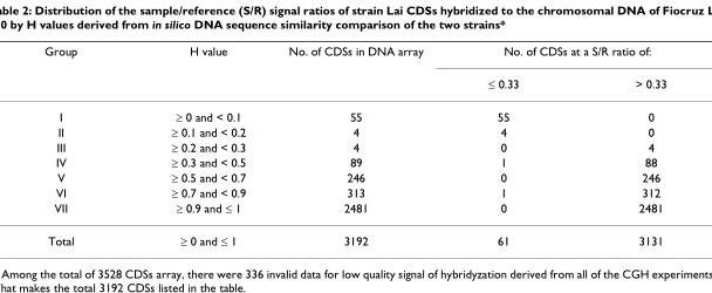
<table><thead><tr><td rowspan="2">Group</td><td rowspan="2">H value</td><td rowspan="2">No. of CDSs in DNA array</td><td colspan="2">No. of CDSs at a S/R ratio of:</td></tr><tr><td>≤ 0.33</td><td>&gt; 0.33</td></tr></thead><tbody><tr><td>I</td><td>≥ 0 and &lt; 0.1</td><td>55</td><td>55</td><td>0</td></tr><tr><td>II</td><td>≥ 0.1 and &lt; 0.2</td><td>4</td><td>4</td><td>0</td></tr><tr><td>III</td><td>≥ 0.2 and &lt; 0.3</td><td>4</td><td>0</td><td>4</td></tr><tr><td>IV</td><td>≥ 0.3 and &lt; 0.5</td><td>89</td><td>1</td><td>88</td></tr><tr><td>V</td><td>≥ 0.5 and &lt; 0.7</td><td>246</td><td>0</td><td>246</td></tr><tr><td>VI</td><td>≥ 0.7 and &lt; 0.9</td><td>313</td><td>1</td><td>312</td></tr><tr><td>VII</td><td>≥ 0.9 and ≤ 1</td><td>2481</td><td>0</td><td>2481</td></tr><tr><td>Total</td><td>≥ 0 and ≤ 1</td><td>3192</td><td>61</td><td>3131</td></tr></tbody></table>